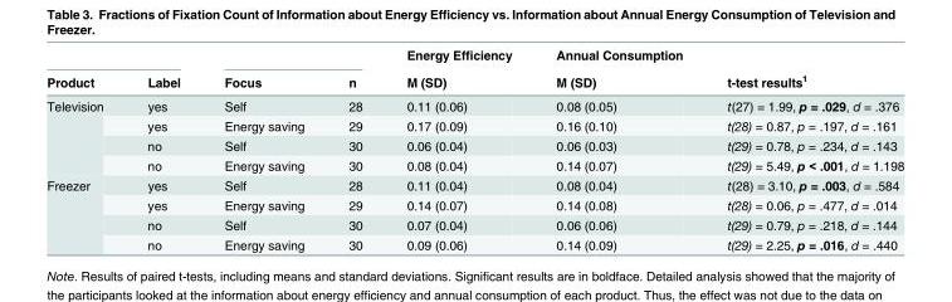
<table><thead><tr><td rowspan="2">Product</td><td rowspan="2">Label</td><td rowspan="2">Focus</td><td rowspan="2">n</td><td rowspan="2">Energy Efficiency M (SD)</td><td rowspan="2">Annual Consumption M (SD)</td><td rowspan="2">t-test results<sup>1</sup></td></tr><tr></tr></thead><tbody><tr><td rowspan="4">Television</td><td>yes</td><td>Self</td><td>28</td><td>0.11 (0.06)</td><td>0.08 (0.05)</td><td>t(27) = 1.99, p = .029, d = .376</td></tr><tr><td>yes</td><td>Energy saving</td><td>29</td><td>0.17 (0.09)</td><td>0.16 (0.10)</td><td>t(28) = 0.87, p = .197, d = .161</td></tr><tr><td>no</td><td>Self</td><td>30</td><td>0.06 (0.04)</td><td>0.06 (0.03)</td><td>t(29) = 0.78, p = .234, d = .143</td></tr><tr><td>no</td><td>Energy saving</td><td>30</td><td>0.08 (0.04)</td><td>0.14 (0.07)</td><td>t(29) = 5.49, p &lt; .001, d = 1.198</td></tr><tr><td rowspan="4">Freezer</td><td>yes</td><td>Self</td><td>28</td><td>0.11 (0.04)</td><td>0.08 (0.04)</td><td>t(28) = 3.10, p = .003, d = .584</td></tr><tr><td>yes</td><td>Energy saving</td><td>29</td><td>0.14 (0.07)</td><td>0.14 (0.08)</td><td>t(28) = 0.06, p = .477, d = .014</td></tr><tr><td>no</td><td>Self</td><td>30</td><td>0.07 (0.04)</td><td>0.06 (0.06)</td><td>t(29) = 0.79, p = .218, d = .144</td></tr><tr><td>no</td><td>Energy saving</td><td>30</td><td>0.09 (0.06)</td><td>0.14 (0.09)</td><td>t(29) = 2.25, p = .016, d = .440</td></tr></tbody></table>